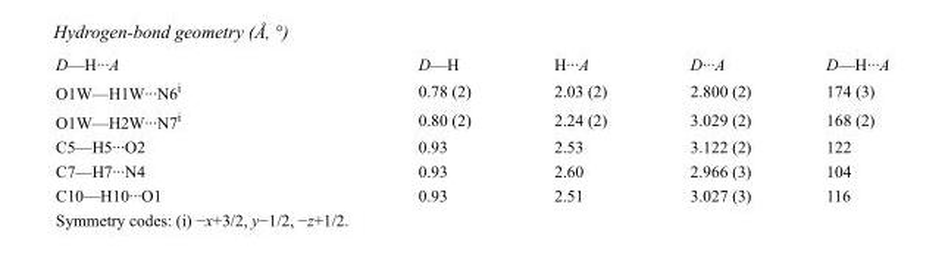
<table><tbody><tr><td>D—H···A</td><td>D—H</td><td>H···A</td><td>D···A</td><td>D—H···A</td></tr><tr><td>O1W—H1W···N6<sup>i</sup></td><td>0.78 (2)</td><td>2.03 (2)</td><td>2.800 (2)</td><td>174 (3)</td></tr><tr><td>O1W—H2W···N7<sup>i</sup></td><td>0.80 (2)</td><td>2.24 (2)</td><td>3.029 (2)</td><td>168 (2)</td></tr><tr><td>C5—H5···O2</td><td>0.93</td><td>2.53</td><td>3.122 (2)</td><td>122</td></tr><tr><td>C7—H7···N4</td><td>0.93</td><td>2.60</td><td>2.966 (3)</td><td>104</td></tr><tr><td>C10—H10···O1</td><td>0.93</td><td>2.51</td><td>3.027 (3)</td><td>116</td></tr></tbody></table>